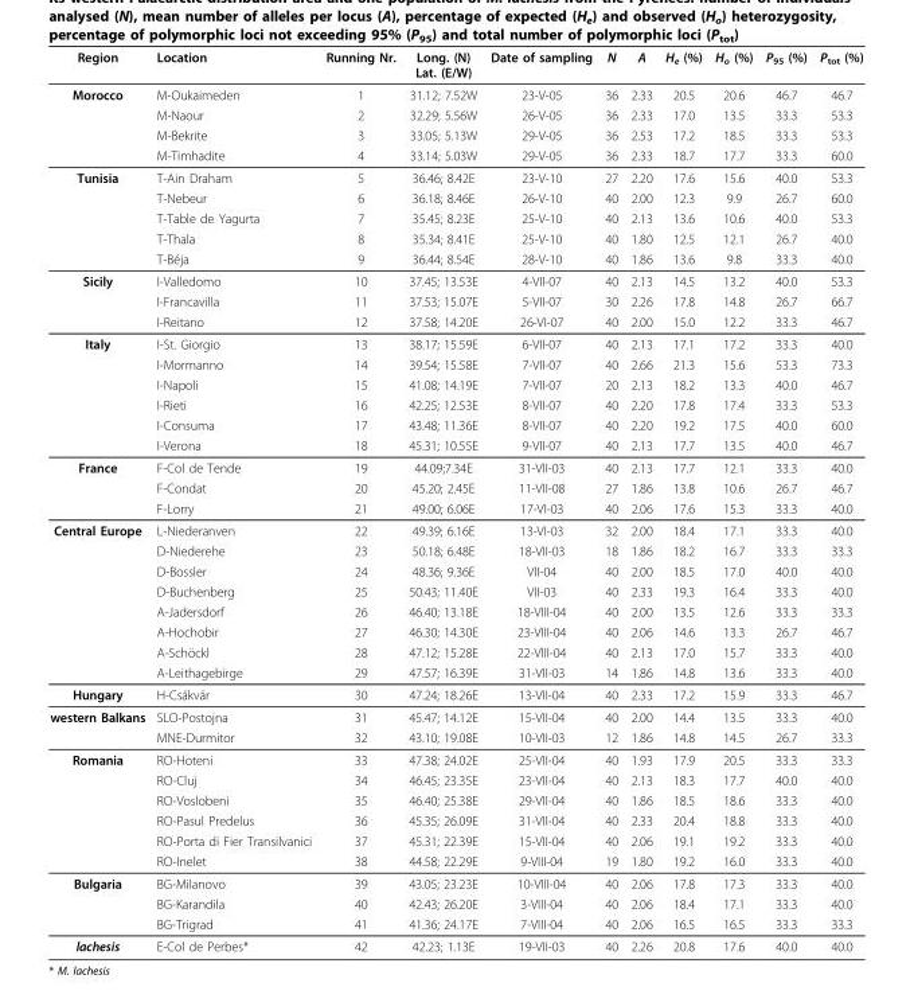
<table><thead><tr><td>Region</td><td>Location</td><td>Running Nr.</td><td>Long. (N) Lat. (E/W)</td><td>Date of sampling</td><td>N</td><td>A</td><td>H<sub>e</sub> (%)</td><td>H<sub>o</sub> (%)</td><td>P<sub>95</sub> (%)</td><td>P<sub>tot</sub> (%)</td></tr></thead><tbody><tr><td rowspan="4">Morocco</td><td>M-Oukaimeden</td><td>1</td><td>31.12; 7.52W</td><td>23-V-05</td><td>36</td><td>2.33</td><td>20.5</td><td>20.6</td><td>46.7</td><td>46.7</td></tr><tr><td>M-Naour</td><td>2</td><td>32.29; 5.56W</td><td>26-V-05</td><td>36</td><td>2.33</td><td>17.0</td><td>13.5</td><td>33.3</td><td>53.3</td></tr><tr><td>M-Bekrite</td><td>3</td><td>33.05; 5.13W</td><td>29-V-05</td><td>36</td><td>2.53</td><td>17.2</td><td>18.5</td><td>33.3</td><td>53.3</td></tr><tr><td>M-Timhadite</td><td>4</td><td>33.14; 5.03W</td><td>29-V-05</td><td>36</td><td>2.33</td><td>18.7</td><td>17.7</td><td>33.3</td><td>60.0</td></tr><tr><td rowspan="5">Tunisia</td><td>T-Ain Draham</td><td>5</td><td>36.46; 8.42E</td><td>23-V-10</td><td>27</td><td>2.20</td><td>17.6</td><td>15.6</td><td>40.0</td><td>53.3</td></tr><tr><td>T-Nebeur</td><td>6</td><td>36.18; 8.46E</td><td>26-V-10</td><td>40</td><td>2.00</td><td>12.3</td><td>9.9</td><td>26.7</td><td>60.0</td></tr><tr><td>T-Table de Yagurta</td><td>7</td><td>35.45; 8.23E</td><td>25-V-10</td><td>40</td><td>2.13</td><td>13.6</td><td>10.6</td><td>40.0</td><td>53.3</td></tr><tr><td>T-Thala</td><td>8</td><td>35.34; 8.41E</td><td>25-V-10</td><td>40</td><td>1.80</td><td>12.5</td><td>12.1</td><td>26.7</td><td>40.0</td></tr><tr><td>T-Béja</td><td>9</td><td>36.44; 8.54E</td><td>28-V-10</td><td>40</td><td>1.86</td><td>13.6</td><td>9.8</td><td>33.3</td><td>40.0</td></tr><tr><td rowspan="3">Sicily</td><td>I-Valledomo</td><td>10</td><td>37.45; 13.53E</td><td>4-VII-07</td><td>40</td><td>2.13</td><td>14.5</td><td>13.2</td><td>40.0</td><td>53.3</td></tr><tr><td>I-Francavilla</td><td>11</td><td>37.53; 15.07E</td><td>5-VII-07</td><td>30</td><td>2.26</td><td>17.8</td><td>14.8</td><td>26.7</td><td>66.7</td></tr><tr><td>I-Reitano</td><td>12</td><td>37.58; 14.20E</td><td>26-VI-07</td><td>40</td><td>2.00</td><td>15.0</td><td>12.2</td><td>33.3</td><td>46.7</td></tr><tr><td rowspan="6">Italy</td><td>I-St. Giorgio</td><td>13</td><td>38.17; 15.59E</td><td>6-VII-07</td><td>40</td><td>2.13</td><td>17.1</td><td>17.2</td><td>33.3</td><td>40.0</td></tr><tr><td>I-Mormanno</td><td>14</td><td>39.54; 15.58E</td><td>7-VII-07</td><td>40</td><td>2.66</td><td>21.3</td><td>15.6</td><td>53.3</td><td>73.3</td></tr><tr><td>I-Napoli</td><td>15</td><td>41.08; 14.19E</td><td>7-VII-07</td><td>20</td><td>2.13</td><td>18.2</td><td>13.3</td><td>40.0</td><td>46.7</td></tr><tr><td>I-Rieti</td><td>16</td><td>42.25; 12.53E</td><td>8-VII-07</td><td>40</td><td>2.20</td><td>17.8</td><td>17.4</td><td>33.3</td><td>53.3</td></tr><tr><td>I-Consuma</td><td>17</td><td>43.48; 11.36E</td><td>8-VII-07</td><td>40</td><td>2.20</td><td>19.2</td><td>17.5</td><td>40.0</td><td>60.0</td></tr><tr><td>I-Verona</td><td>18</td><td>45.31; 10.55E</td><td>9-VII-07</td><td>40</td><td>2.13</td><td>17.7</td><td>13.5</td><td>40.0</td><td>46.7</td></tr><tr><td rowspan="3">France</td><td>F-Col de Tende</td><td>19</td><td>44.09;7.34E</td><td>31-VII-03</td><td>40</td><td>2.13</td><td>17.7</td><td>12.1</td><td>33.3</td><td>40.0</td></tr><tr><td>F-Condat</td><td>20</td><td>45.20; 2.45E</td><td>11-VII-08</td><td>27</td><td>1.86</td><td>13.8</td><td>10.6</td><td>26.7</td><td>46.7</td></tr><tr><td>F-Lorry</td><td>21</td><td>49.00; 6.06E</td><td>17-VI-03</td><td>40</td><td>2.06</td><td>17.6</td><td>15.3</td><td>33.3</td><td>40.0</td></tr><tr><td rowspan="8">Central Europe</td><td>L-Niederanven</td><td>22</td><td>49.39; 6.16E</td><td>13-VI-03</td><td>32</td><td>2.00</td><td>18.4</td><td>17.1</td><td>33.3</td><td>40.0</td></tr><tr><td>D-Niederehe</td><td>23</td><td>50.18; 6.48E</td><td>18-VII-03</td><td>18</td><td>1.86</td><td>18.2</td><td>16.7</td><td>33.3</td><td>33.3</td></tr><tr><td>D-Bossler</td><td>24</td><td>48.36; 9.36E</td><td>VII-04</td><td>40</td><td>2.00</td><td>18.5</td><td>17.0</td><td>40.0</td><td>40.0</td></tr><tr><td>D-Buchenberg</td><td>25</td><td>50.43; 11.40E</td><td>VII-03</td><td>40</td><td>2.33</td><td>19.3</td><td>16.4</td><td>33.3</td><td>40.0</td></tr><tr><td>A-Jadersdorf</td><td>26</td><td>46.40; 13.18E</td><td>18-VIII-04</td><td>40</td><td>2.00</td><td>13.5</td><td>12.6</td><td>33.3</td><td>33.3</td></tr><tr><td>A-Hochobir</td><td>27</td><td>46.30; 14.30E</td><td>23-VIII-04</td><td>40</td><td>2.06</td><td>14.6</td><td>13.3</td><td>26.7</td><td>46.7</td></tr><tr><td>A-Schöckl</td><td>28</td><td>47.12; 15.28E</td><td>22-VIII-04</td><td>40</td><td>2.13</td><td>17.0</td><td>15.7</td><td>33.3</td><td>40.0</td></tr><tr><td>A-Leithagebirge</td><td>29</td><td>47.57; 16.39E</td><td>31-VII-03</td><td>14</td><td>1.86</td><td>14.8</td><td>13.6</td><td>33.3</td><td>40.0</td></tr><tr><td>Hungary</td><td>H-Csákvár</td><td>30</td><td>47.24; 18.26E</td><td>13-VII-04</td><td>40</td><td>2.33</td><td>17.2</td><td>15.9</td><td>33.3</td><td>46.7</td></tr><tr><td rowspan="2">western Balkans</td><td>SLO-Postojna</td><td>31</td><td>45.47; 14.12E</td><td>15-VII-04</td><td>40</td><td>2.00</td><td>14.4</td><td>13.5</td><td>33.3</td><td>40.0</td></tr><tr><td>MNE-Durmitor</td><td>32</td><td>43.10; 19.08E</td><td>10-VII-03</td><td>12</td><td>1.86</td><td>14.8</td><td>14.5</td><td>26.7</td><td>33.3</td></tr><tr><td rowspan="6">Romania</td><td>RO-Hoteni</td><td>33</td><td>47.38; 24.02E</td><td>25-VII-04</td><td>40</td><td>1.93</td><td>17.9</td><td>20.5</td><td>33.3</td><td>33.3</td></tr><tr><td>RO-Cluj</td><td>34</td><td>46.45; 23.35E</td><td>23-VII-04</td><td>40</td><td>2.13</td><td>18.3</td><td>17.7</td><td>40.0</td><td>40.0</td></tr><tr><td>RO-Voslobeni</td><td>35</td><td>46.40; 25.38E</td><td>29-VII-04</td><td>40</td><td>1.86</td><td>18.5</td><td>18.6</td><td>33.3</td><td>40.0</td></tr><tr><td>RO-Pasul Predelus</td><td>36</td><td>45.35; 26.09E</td><td>31-VII-04</td><td>40</td><td>2.33</td><td>20.4</td><td>18.8</td><td>33.3</td><td>40.0</td></tr><tr><td>RO-Porta di Fier Transilvanici</td><td>37</td><td>45.31; 22.39E</td><td>15-VII-04</td><td>40</td><td>2.06</td><td>19.1</td><td>19.2</td><td>33.3</td><td>40.0</td></tr><tr><td>RO-Inelet</td><td>38</td><td>44.58; 22.29E</td><td>9-VIII-04</td><td>19</td><td>1.80</td><td>19.2</td><td>16.0</td><td>33.3</td><td>40.0</td></tr><tr><td rowspan="3">Bulgaria</td><td>BG-Milanovo</td><td>39</td><td>43.05; 23.23E</td><td>10-VIII-04</td><td>40</td><td>2.06</td><td>17.8</td><td>17.3</td><td>33.3</td><td>40.0</td></tr><tr><td>BG-Karandila</td><td>40</td><td>42.43; 26.20E</td><td>3-VIII-04</td><td>40</td><td>2.06</td><td>18.4</td><td>17.1</td><td>33.3</td><td>40.0</td></tr><tr><td>BG-Trigrad</td><td>41</td><td>41.36; 24.17E</td><td>7-VIII-04</td><td>40</td><td>2.06</td><td>16.5</td><td>16.5</td><td>33.3</td><td>33.3</td></tr><tr><td>lachesis</td><td>E-Col de Perbes*</td><td>42</td><td>42.23; 1.13E</td><td>19-VII-03</td><td>40</td><td>2.26</td><td>20.8</td><td>17.6</td><td>40.0</td><td>40.0</td></tr></tbody></table>